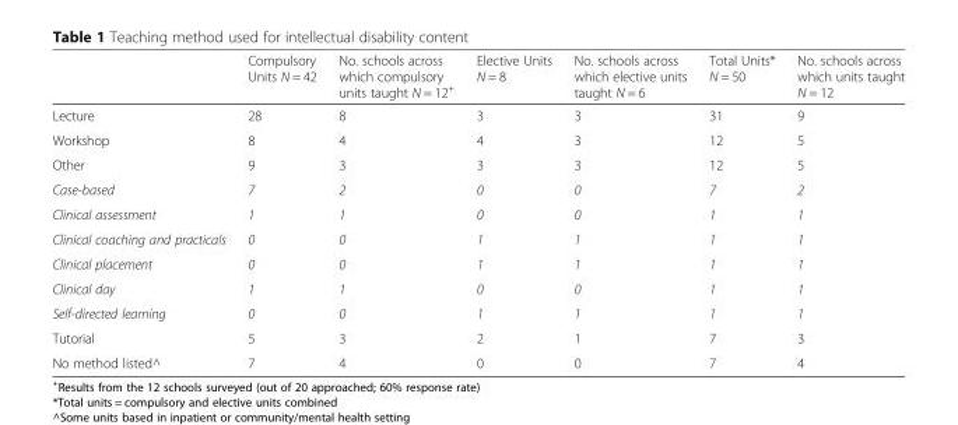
<table><thead><tr><td></td><td>Compulsory Units N = 42</td><td>No. schools across which compulsory units taught N = 12<sup>+</sup></td><td>Elective Units N = 8</td><td>No. schools across which elective units taught N = 6</td><td>Total Units* N = 50</td><td>No. schools across which units taught N = 12</td></tr></thead><tbody><tr><td>Lecture</td><td>28</td><td>8</td><td>3</td><td>3</td><td>31</td><td>9</td></tr><tr><td>Workshop</td><td>8</td><td>4</td><td>4</td><td>3</td><td>12</td><td>5</td></tr><tr><td>Other</td><td>9</td><td>3</td><td>3</td><td>3</td><td>12</td><td>5</td></tr><tr><td>Case-based</td><td>7</td><td>2</td><td>0</td><td>0</td><td>7</td><td>2</td></tr><tr><td>Clinical assessment</td><td>1</td><td>1</td><td>0</td><td>0</td><td>1</td><td>1</td></tr><tr><td>Clinical coaching and practicals</td><td>0</td><td>0</td><td>1</td><td>1</td><td>1</td><td>1</td></tr><tr><td>Clinical placement</td><td>0</td><td>0</td><td>1</td><td>1</td><td>1</td><td>1</td></tr><tr><td>Clinical day</td><td>1</td><td>1</td><td>0</td><td>0</td><td>1</td><td>1</td></tr><tr><td>Self-directed learning</td><td>0</td><td>0</td><td>1</td><td>1</td><td>1</td><td>1</td></tr><tr><td>Tutorial</td><td>5</td><td>3</td><td>2</td><td>1</td><td>7</td><td>3</td></tr><tr><td>No method listed^</td><td>7</td><td>4</td><td>0</td><td>0</td><td>7</td><td>4</td></tr></tbody></table>